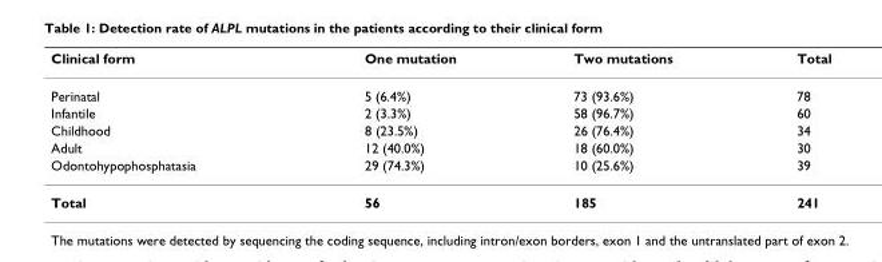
<table><thead><tr><td>Clinical form</td><td>One mutation</td><td>Two mutations</td><td>Total</td></tr></thead><tbody><tr><td>Perinatal</td><td>5 (6.4%)</td><td>73 (93.6%)</td><td>78</td></tr><tr><td>Infantile</td><td>2 (3.3%)</td><td>58 (96.7%)</td><td>60</td></tr><tr><td>Childhood</td><td>8 (23.5%)</td><td>26 (76.4%)</td><td>34</td></tr><tr><td>Adult</td><td>12 (40.0%)</td><td>18 (60.0%)</td><td>30</td></tr><tr><td>Odontohypophosphatasia</td><td>29 (74.3%)</td><td>10 (25.6%)</td><td>39</td></tr><tr><td>Total</td><td>56</td><td>185</td><td>241</td></tr></tbody></table>